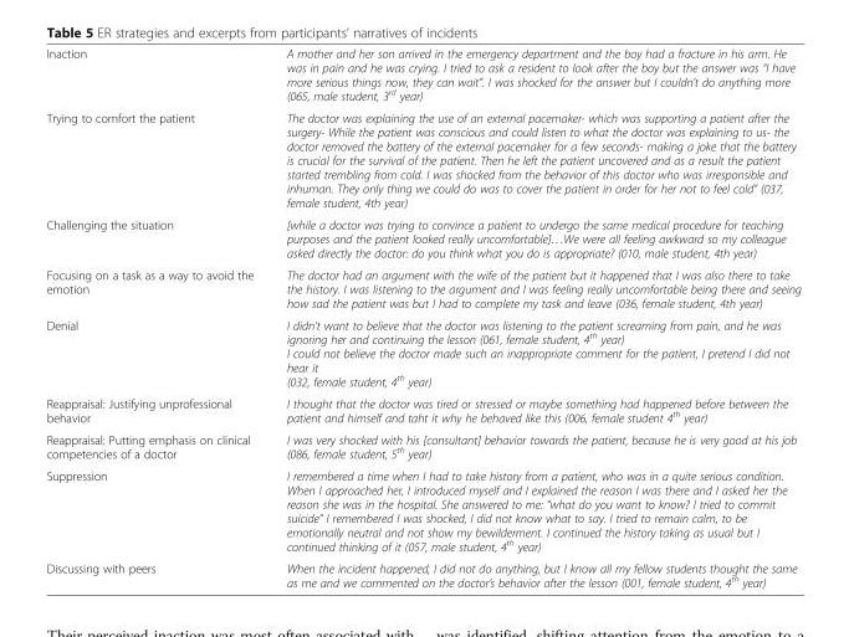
<table><tbody><tr><td>Inaction</td><td>A mother and her son arrived in the emergency department and the boy had a fracture in his arm. He was in pain and he was crying. I tried to ask a resident to look after the boy but the answer was “I have more serious things now, they can wait”. I was shocked for the answer but I couldn’t do anything more (065, male student, 3<sup>rd</sup> year)</td></tr><tr><td>Trying to comfort the patient</td><td>The doctor was explaining the use of an external pacemaker- which was supporting a patient after the surgery- While the patient was conscious and could listen to what the doctor was explaining to us- the doctor removed the battery of the external pacemaker for a few seconds- making a joke that the battery is crucial for the survival of the patient. Then he left the patient uncovered and as a result the patient started trembling from cold. I was shocked from the behavior of this doctor who was irresponsible and inhuman. They only thing we could do was to cover the patient in order for her not to feel cold” (037, female student, 4th year)</td></tr><tr><td>Challenging the situation</td><td>[while a doctor was trying to convince a patient to undergo the same medical procedure for teaching purposes and the patient looked really uncomfortable]…We were all feeling awkward so my colleague asked directly the doctor: do you think what you do is appropriate? (010, male student, 4th year)</td></tr><tr><td>Focusing on a task as a way to avoid the emotion</td><td>The doctor had an argument with the wife of the patient but it happened that I was also there to take the history. I was listening to the argument and I was feeling really uncomfortable being there and seeing how sad the patient was but I had to complete my task and leave (036, female student, 4th year)</td></tr><tr><td>Denial</td><td>I didn’t want to believe that the doctor was listening to the patient screaming from pain, and he was ignoring her and continuing the lesson (061, female student, 4<sup>th</sup> year) I could not believe the doctor made such an inappropriate comment for the patient, I pretend I did not hear it (032, female student, 4<sup>th</sup> year)</td></tr><tr><td>Reappraisal: Justifying unprofessional behavior</td><td>I thought that the doctor was tired or stressed or maybe something had happened before between the patient and himself and taht it why he behaved like this (006, female student 4<sup>th</sup> year)</td></tr><tr><td>Reappraisal: Putting emphasis on clinical competencies of a doctor</td><td>I was very shocked with his [consultant] behavior towards the patient, because he is very good at his job (086, female student, 5<sup>th</sup> year)</td></tr><tr><td>Suppression</td><td>I remembered a time when I had to take history from a patient, who was in a quite serious condition. When I approached her, I introduced myself and I explained the reason I was there and I asked her the reason she was in the hospital. She answered to me: “what do you want to know? I tried to commit suicide” I remembered I was shocked, I did not know what to say. I tried to remain calm, to be emotionally neutral and not show my bewilderment. I continued the history taking as usual but I continued thinking of it (057, male student, 4<sup>th</sup> year)</td></tr><tr><td>Discussing with peers</td><td>When the incident happened, I did not do anything, but I know all my fellow students thought the same as me and we commented on the doctor’s behavior after the lesson (001, female student, 4<sup>th</sup> year)</td></tr></tbody></table>